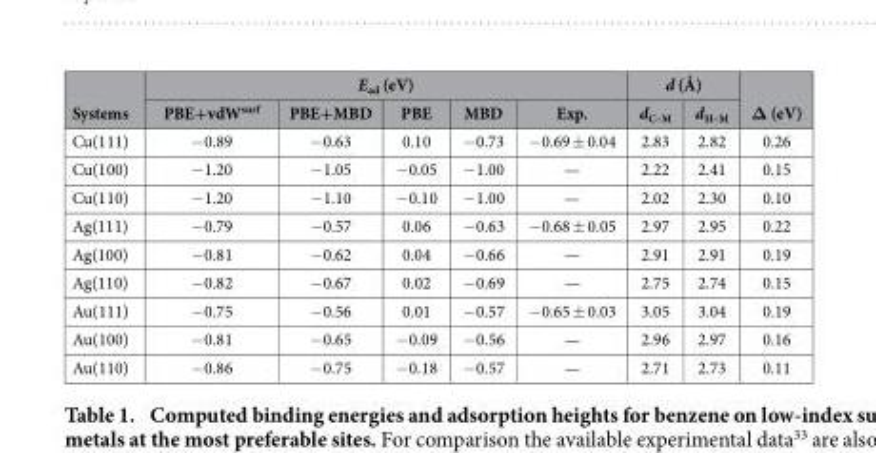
<table><thead><tr><td rowspan="2">Systems</td><td colspan="5">E<sub>ad</sub> (eV)</td><td colspan="2">d (Å)</td><td rowspan="2">Δ (eV)</td></tr><tr><td>PBE+vdW<sup>surf</sup></td><td>PBE+MBD</td><td>PBE</td><td>MBD</td><td>Exp.</td><td>d<sub>C–M</sub></td><td>d<sub>H–M</sub></td></tr></thead><tbody><tr><td>Cu(111)</td><td>− 0.89</td><td>− 0.63</td><td>0.10</td><td>− 0.73</td><td>− 0.69 ± 0.04</td><td>2.83</td><td>2.82</td><td>0.26</td></tr><tr><td>Cu(100)</td><td>− 1.20</td><td>− 1.05</td><td>− 0.05</td><td>− 1.00</td><td>—</td><td>2.22</td><td>2.41</td><td>0.15</td></tr><tr><td>Cu(110)</td><td>− 1.20</td><td>− 1.10</td><td>− 0.10</td><td>− 1.00</td><td>—</td><td>2.02</td><td>2.30</td><td>0.10</td></tr><tr><td>Ag(111)</td><td>− 0.79</td><td>− 0.57</td><td>0.06</td><td>− 0.63</td><td>− 0.68 ± 0.05</td><td>2.97</td><td>2.95</td><td>0.22</td></tr><tr><td>Ag(100)</td><td>− 0.81</td><td>− 0.62</td><td>0.04</td><td>− 0.66</td><td>—</td><td>2.91</td><td>2.91</td><td>0.19</td></tr><tr><td>Ag(110)</td><td>− 0.82</td><td>− 0.67</td><td>0.02</td><td>− 0.69</td><td>—</td><td>2.75</td><td>2.74</td><td>0.15</td></tr><tr><td>Au(111)</td><td>− 0.75</td><td>− 0.56</td><td>0.01</td><td>− 0.57</td><td>− 0.65 ± 0.03</td><td>3.05</td><td>3.04</td><td>0.19</td></tr><tr><td>Au(100)</td><td>− 0.81</td><td>− 0.65</td><td>− 0.09</td><td>− 0.56</td><td>—</td><td>2.96</td><td>2.97</td><td>0.16</td></tr><tr><td>Au(110)</td><td>− 0.86</td><td>− 0.75</td><td>− 0.18</td><td>− 0.57</td><td>—</td><td>2.71</td><td>2.73</td><td>0.11</td></tr></tbody></table>